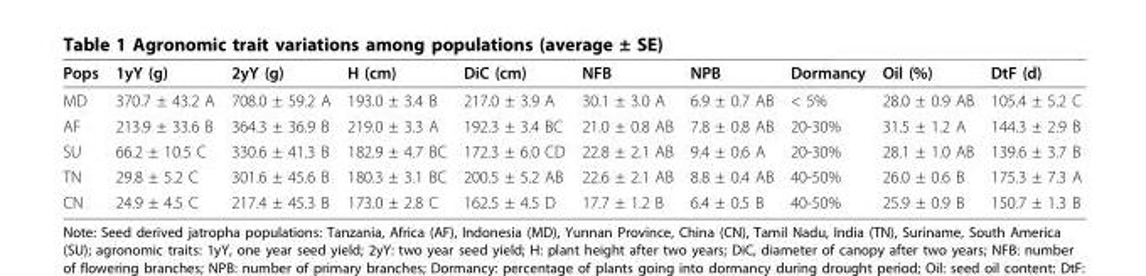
<table><thead><tr><td>Pops</td><td>1yY (g)</td><td>2yY (g)</td><td>H (cm)</td><td>DiC (cm)</td><td>NFB</td><td>NPB</td><td>Dormancy</td><td>Oil (%)</td><td>DtF (d)</td></tr></thead><tbody><tr><td>MD</td><td>370.7 ± 43.2 A</td><td>708.0 ± 59.2 A</td><td>193.0 ± 3.4 B</td><td>217.0 ± 3.9 A</td><td>30.1 ± 3.0 A</td><td>6.9 ± 0.7 AB</td><td>&lt; 5%</td><td>28.0 ± 0.9 AB</td><td>105.4 ± 5.2 C</td></tr><tr><td>AF</td><td>213.9 ± 33.6 B</td><td>364.3 ± 36.9 B</td><td>219.0 ± 3.3 A</td><td>192.3 ± 3.4 BC</td><td>21.0 ± 0.8 AB</td><td>7.8 ± 0.8 AB</td><td>20-30%</td><td>31.5 ± 1.2 A</td><td>144.3 ± 2.9 B</td></tr><tr><td>SU</td><td>66.2 ± 10.5 C</td><td>330.6 ± 41.3 B</td><td>182.9 ± 4.7 BC</td><td>172.3 ± 6.0 CD</td><td>22.8 ± 2.1 AB</td><td>9.4 ± 0.6 A</td><td>20-30%</td><td>28.1 ± 1.0 AB</td><td>139.6 ± 3.7 B</td></tr><tr><td>TN</td><td>29.8 ± 5.2 C</td><td>301.6 ± 45.6 B</td><td>180.3 ± 3.1 BC</td><td>200.5 ± 5.2 AB</td><td>22.6 ± 2.1 AB</td><td>8.8 ± 0.4 AB</td><td>40-50%</td><td>26.0 ± 0.6 B</td><td>175.3 ± 7.3 A</td></tr><tr><td>CN</td><td>24.9 ± 4.5 C</td><td>217.4 ± 45.3 B</td><td>173.0 ± 2.8 C</td><td>162.5 ± 4.5 D</td><td>17.7 ± 1.2 B</td><td>6.4 ± 0.5 B</td><td>40-50%</td><td>25.9 ± 0.9 B</td><td>150.7 ± 1.3 B</td></tr></tbody></table>